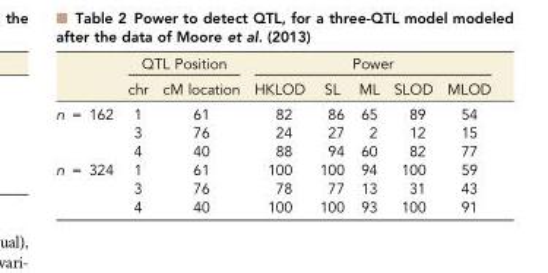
<table><thead><tr><td rowspan="2"></td><td colspan="2">QTL Position</td><td colspan="5">Power</td></tr><tr><td>chr</td><td>cM location</td><td>HKLOD</td><td>SL</td><td>ML</td><td>SLOD</td><td>MLOD</td></tr></thead><tbody><tr><td rowspan="3">n = 162</td><td>1</td><td>61</td><td>82</td><td>86</td><td>65</td><td>89</td><td>54</td></tr><tr><td>3</td><td>76</td><td>24</td><td>27</td><td>2</td><td>12</td><td>15</td></tr><tr><td>4</td><td>40</td><td>88</td><td>94</td><td>60</td><td>82</td><td>77</td></tr><tr><td rowspan="3">n = 324</td><td>1</td><td>61</td><td>100</td><td>100</td><td>94</td><td>100</td><td>59</td></tr><tr><td>3</td><td>76</td><td>78</td><td>77</td><td>13</td><td>31</td><td>43</td></tr><tr><td>4</td><td>40</td><td>100</td><td>100</td><td>93</td><td>100</td><td>91</td></tr></tbody></table>